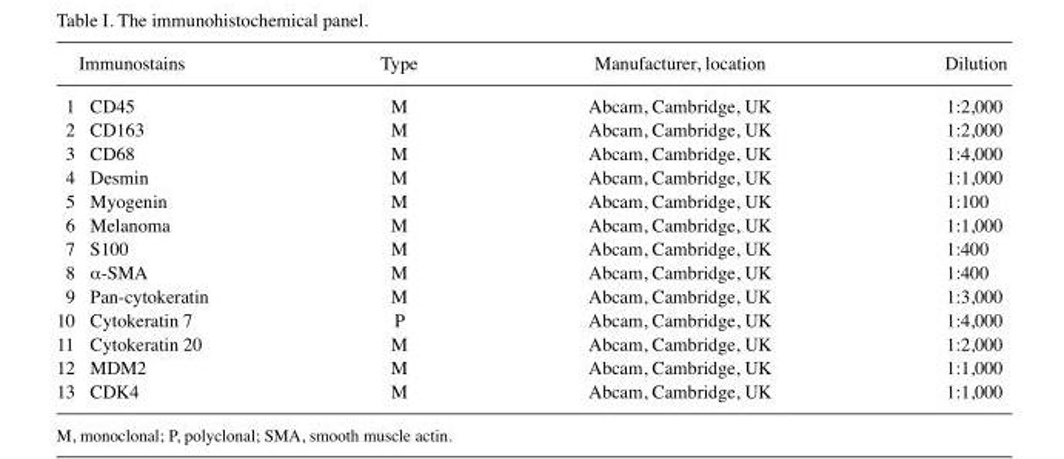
<table><thead><tr><td colspan="2">Immunostains</td><td rowspan="2">Type M</td><td rowspan="2">Manufacturer, location Abcam, Cambridge, UK</td><td rowspan="2">Dilution 1:2,000</td></tr><tr><td>1</td><td>CD45</td></tr></thead><tbody><tr><td>2</td><td>CD163</td><td>M</td><td>Abcam, Cambridge, UK</td><td>1:2,000</td></tr><tr><td>3</td><td>CD68</td><td>M</td><td>Abcam, Cambridge, UK</td><td>1:4,000</td></tr><tr><td>4</td><td>Desmin</td><td>M</td><td>Abcam, Cambridge, UK</td><td>1:1,000</td></tr><tr><td>5</td><td>Myogenin</td><td>M</td><td>Abcam, Cambridge, UK</td><td>1:100</td></tr><tr><td>6</td><td>Melanoma</td><td>M</td><td>Abcam, Cambridge, UK</td><td>1:1,000</td></tr><tr><td>7</td><td>S100</td><td>M</td><td>Abcam, Cambridge, UK</td><td>1:400</td></tr><tr><td>8</td><td>α-SMA</td><td>M</td><td>Abcam, Cambridge, UK</td><td>1:400</td></tr><tr><td>9</td><td>Pan-cytokeratin</td><td>M</td><td>Abcam, Cambridge, UK</td><td>1:3,000</td></tr><tr><td>10</td><td>Cytokeratin 7</td><td>P</td><td>Abcam, Cambridge, UK</td><td>1:4,000</td></tr><tr><td>11</td><td>Cytokeratin 20</td><td>M</td><td>Abcam, Cambridge, UK</td><td>1:2,000</td></tr><tr><td>12</td><td>MDM2</td><td>M</td><td>Abcam, Cambridge, UK</td><td>1:1,000</td></tr><tr><td>13</td><td>CDK4</td><td>M</td><td>Abcam, Cambridge, UK</td><td>1:1,000</td></tr></tbody></table>